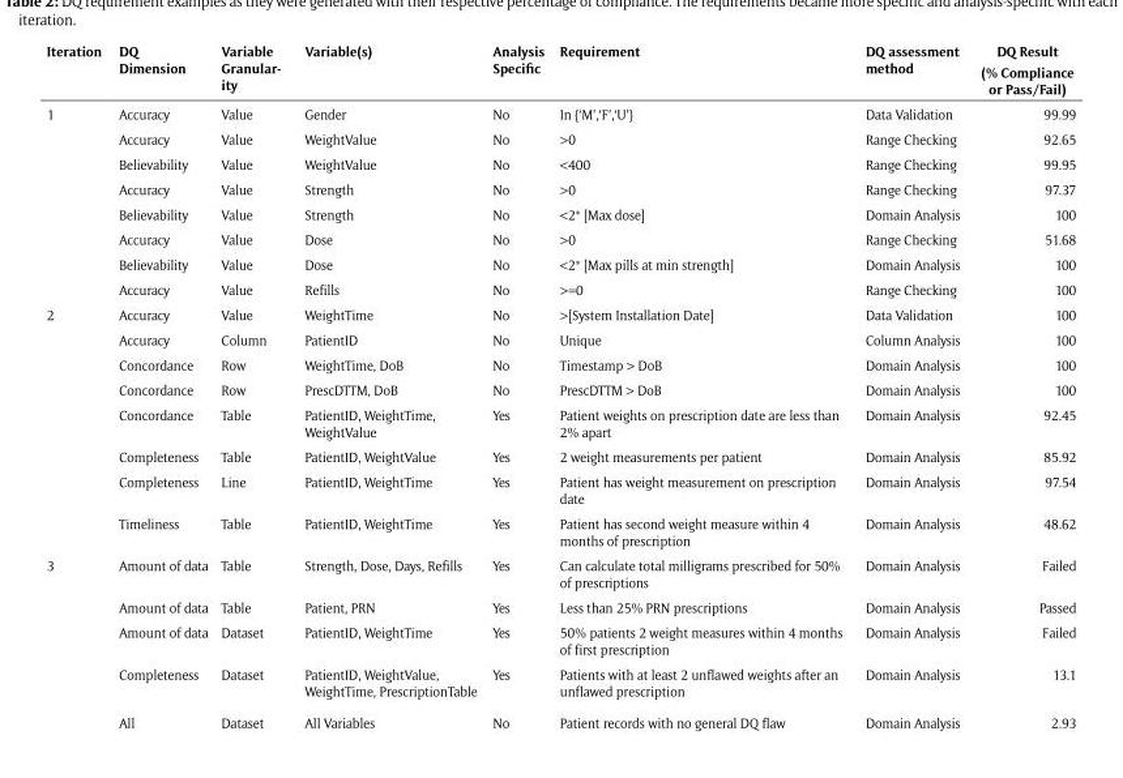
<table><thead><tr><td>Iteration</td><td>DQ Dimension</td><td>Variable Granular- ity</td><td>Variable(s)</td><td>Analysis Specific</td><td>Requirement</td><td>DQ assessment method</td><td>DQ Result (% Compliance or Pass/Fail)</td></tr></thead><tbody><tr><td rowspan="8">1</td><td>Accuracy</td><td>Value</td><td>Gender</td><td>No</td><td>In {‘M’,‘F’,‘U’}</td><td>Data Validation</td><td>99.99</td></tr><tr><td>Accuracy</td><td>Value</td><td>WeightValue</td><td>No</td><td>&gt;0</td><td>Range Checking</td><td>92.65</td></tr><tr><td>Believability</td><td>Value</td><td>WeightValue</td><td>No</td><td>&lt;400</td><td>Range Checking</td><td>99.95</td></tr><tr><td>Accuracy</td><td>Value</td><td>Strength</td><td>No</td><td>&gt;0</td><td>Range Checking</td><td>97.37</td></tr><tr><td>Believability</td><td>Value</td><td>Strength</td><td>No</td><td>&lt;2* [Max dose]</td><td>Domain Analysis</td><td>100</td></tr><tr><td>Accuracy</td><td>Value</td><td>Dose</td><td>No</td><td>&gt;0</td><td>Range Checking</td><td>51.68</td></tr><tr><td>Believability</td><td>Value</td><td>Dose</td><td>No</td><td>&lt;2* [Max pills at min strength]</td><td>Domain Analysis</td><td>100</td></tr><tr><td>Accuracy</td><td>Value</td><td>Refills</td><td>No</td><td>&gt;=0</td><td>Range Checking</td><td>100</td></tr><tr><td rowspan="8">2</td><td>Accuracy</td><td>Value</td><td>WeightTime</td><td>No</td><td>&gt;[System Installation Date]</td><td>Data Validation</td><td>100</td></tr><tr><td>Accuracy</td><td>Column</td><td>PatientID</td><td>No</td><td>Unique</td><td>Column Analysis</td><td>100</td></tr><tr><td>Concordance</td><td>Row</td><td>WeightTime, DoB</td><td>No</td><td>Timestamp &gt; DoB</td><td>Domain Analysis</td><td>100</td></tr><tr><td>Concordance</td><td>Row</td><td>PrescDTTM, DoB</td><td>No</td><td>PrescDTTM &gt; DoB</td><td>Domain Analysis</td><td>100</td></tr><tr><td>Concordance</td><td>Table</td><td>PatientID, WeightTime, WeightValue</td><td>Yes</td><td>Patient weights on prescription date are less than 2% apart</td><td>Domain Analysis</td><td>92.45</td></tr><tr><td>Completeness</td><td>Table</td><td>PatientID, WeightValue</td><td>Yes</td><td>2 weight measurements per patient</td><td>Domain Analysis</td><td>85.92</td></tr><tr><td>Completeness</td><td>Line</td><td>PatientID, WeightTime</td><td>Yes</td><td>Patient has weight measurement on prescription date</td><td>Domain Analysis</td><td>97.54</td></tr><tr><td>Timeliness</td><td>Table</td><td>PatientID, WeightTime</td><td>Yes</td><td>Patient has second weight measure within 4 months of prescription</td><td>Domain Analysis</td><td>48.62</td></tr><tr><td rowspan="5">3</td><td>Amount of data</td><td>Table</td><td>Strength, Dose, Days, Refills</td><td>Yes</td><td>Can calculate total milligrams prescribed for 50% of prescriptions</td><td>Domain Analysis</td><td>Failed</td></tr><tr><td>Amount of data</td><td>Table</td><td>Patient, PRN</td><td>Yes</td><td>Less than 25% PRN prescriptions</td><td>Domain Analysis</td><td>Passed</td></tr><tr><td>Amount of data</td><td>Dataset</td><td>PatientID, WeightTime</td><td>Yes</td><td>50% patients 2 weight measures within 4 months of first prescription</td><td>Domain Analysis</td><td>Failed</td></tr><tr><td>Completeness</td><td>Dataset</td><td>PatientID, WeightValue, WeightTime, PrescriptionTable</td><td>Yes</td><td>Patients with at least 2 unflawed weights after an unflawed prescription</td><td>Domain Analysis</td><td>13.1</td></tr><tr><td>All</td><td>Dataset</td><td>All Variables</td><td>No</td><td>Patient records with no general DQ flaw</td><td>Domain Analysis</td><td>2.93</td></tr></tbody></table>